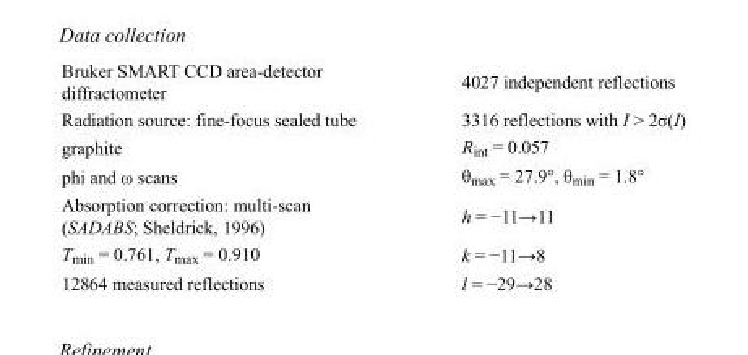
<table><tbody><tr><td>Bruker SMART CCD area-detector diffractometer</td><td>4027 independent reflections</td></tr><tr><td>Radiation source: fine-focus sealed tube</td><td>3316 reflections with I &gt; 2σ(I)</td></tr><tr><td>graphite</td><td>R<sub>int</sub> = 0.057</td></tr><tr><td>phi and ω scans</td><td>θ<sub>max</sub> = 27.9°, θ<sub>min</sub> = 1.8°</td></tr><tr><td>Absorption correction: multi-scan (SADABS; Sheldrick, 1996)</td><td>h = −11→11</td></tr><tr><td>T<sub>min</sub> = 0.761, T<sub>max</sub> = 0.910</td><td>k = −11→8</td></tr><tr><td>12864 measured reflections</td><td>l = −29→28</td></tr></tbody></table>